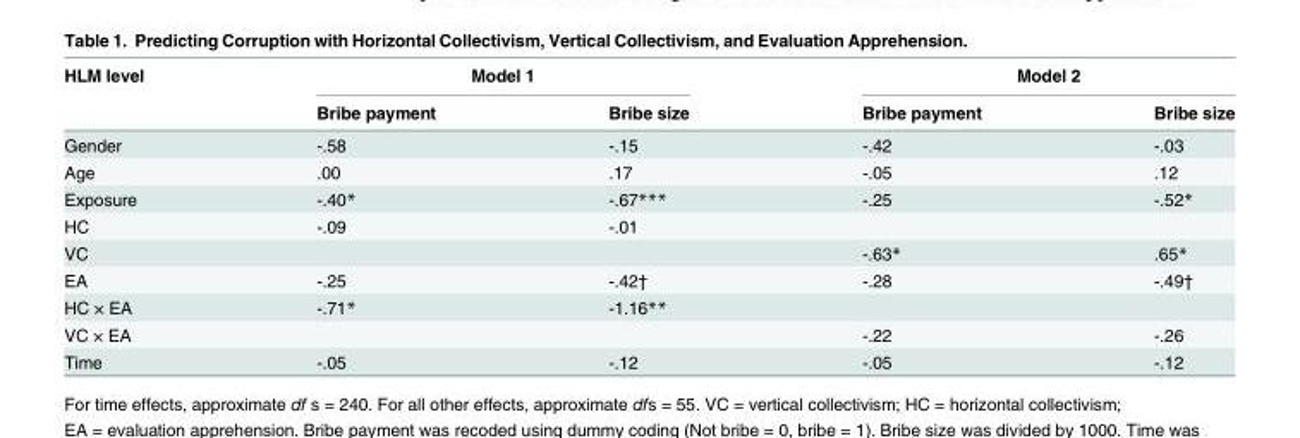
<table><thead><tr><td rowspan="2">HLM level</td><td colspan="2">Model 1</td><td colspan="2">Model 2</td></tr><tr><td>Bribe payment</td><td>Bribe size</td><td>Bribe payment</td><td>Bribe size</td></tr></thead><tbody><tr><td>Gender</td><td>-.58</td><td>-.15</td><td>-.42</td><td>-.03</td></tr><tr><td>Age</td><td>.00</td><td>.17</td><td>-.05</td><td>.12</td></tr><tr><td>Exposure</td><td>-.40*</td><td>-.67***</td><td>-.25</td><td>-.52*</td></tr><tr><td>HC</td><td>-.09</td><td>-.01</td><td></td><td></td></tr><tr><td>VC</td><td></td><td></td><td>-.63*</td><td>.65*</td></tr><tr><td>EA</td><td>-.25</td><td>-.42†</td><td>-.28</td><td>-.49†</td></tr><tr><td>HC × EA</td><td>-.71*</td><td>-1.16**</td><td></td><td></td></tr><tr><td>VC × EA</td><td></td><td></td><td>-.22</td><td>-.26</td></tr><tr><td>Time</td><td>-.05</td><td>-.12</td><td>-.05</td><td>-.12</td></tr></tbody></table>